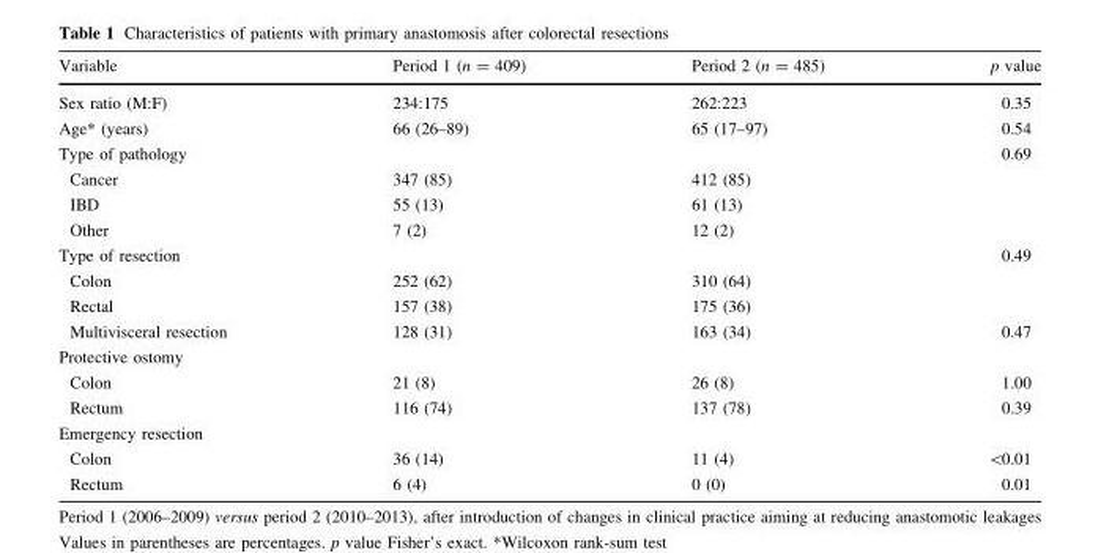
<table><thead><tr><td>Variable</td><td>Period 1 (n = 409)</td><td>Period 2 (n = 485)</td><td>p value</td></tr></thead><tbody><tr><td>Sex ratio (M:F)</td><td>234:175</td><td>262:223</td><td>0.35</td></tr><tr><td>Age* (years)</td><td>66 (26–89)</td><td>65 (17–97)</td><td>0.54</td></tr><tr><td>Type of pathology</td><td></td><td></td><td>0.69</td></tr><tr><td>Cancer</td><td>347 (85)</td><td>412 (85)</td><td></td></tr><tr><td>IBD</td><td>55 (13)</td><td>61 (13)</td><td></td></tr><tr><td>Other</td><td>7 (2)</td><td>12 (2)</td><td></td></tr><tr><td>Type of resection</td><td></td><td></td><td>0.49</td></tr><tr><td>Colon</td><td>252 (62)</td><td>310 (64)</td><td></td></tr><tr><td>Rectal</td><td>157 (38)</td><td>175 (36)</td><td></td></tr><tr><td>Multivisceral resection</td><td>128 (31)</td><td>163 (34)</td><td>0.47</td></tr><tr><td colspan="4">Protective ostomy</td></tr><tr><td>Colon</td><td>21 (8)</td><td>26 (8)</td><td>1.00</td></tr><tr><td>Rectum</td><td>116 (74)</td><td>137 (78)</td><td>0.39</td></tr><tr><td colspan="4">Emergency resection</td></tr><tr><td>Colon</td><td>36 (14)</td><td>11 (4)</td><td>&lt;0.01</td></tr><tr><td>Rectum</td><td>6 (4)</td><td>0 (0)</td><td>0.01</td></tr></tbody></table>